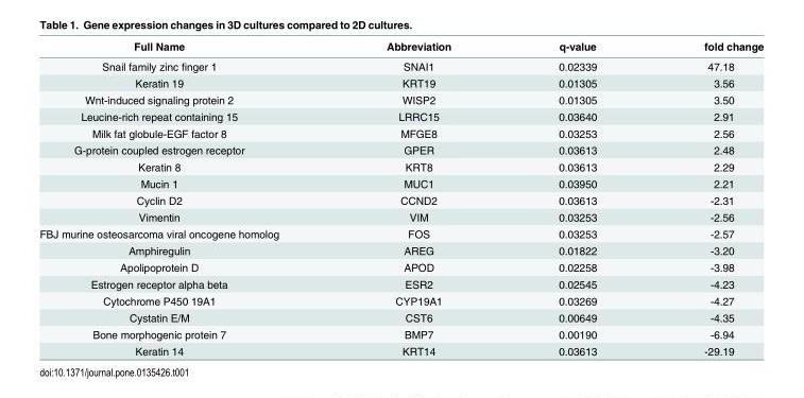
<table><thead><tr><td>Full Name</td><td>Abbreviation</td><td>q-value</td><td>fold change</td></tr></thead><tbody><tr><td>Snail family zinc finger 1</td><td>SNAI1</td><td>0.02339</td><td>47.18</td></tr><tr><td>Keratin 19</td><td>KRT19</td><td>0.01305</td><td>3.56</td></tr><tr><td>Wnt-induced signaling protein 2</td><td>WISP2</td><td>0.01305</td><td>3.50</td></tr><tr><td>Leucine-rich repeat containing 15</td><td>LRRC15</td><td>0.03640</td><td>2.91</td></tr><tr><td>Milk fat globule-EGF factor 8</td><td>MFGE8</td><td>0.03253</td><td>2.56</td></tr><tr><td>G-protein coupled estrogen receptor</td><td>GPER</td><td>0.03613</td><td>2.48</td></tr><tr><td>Keratin 8</td><td>KRT8</td><td>0.03613</td><td>2.29</td></tr><tr><td>Mucin 1</td><td>MUC1</td><td>0.03950</td><td>2.21</td></tr><tr><td>Cyclin D2</td><td>CCND2</td><td>0.03613</td><td>-2.31</td></tr><tr><td>Vimentin</td><td>VIM</td><td>0.03253</td><td>-2.56</td></tr><tr><td>FBJ murine osteosarcoma viral oncogene homolog</td><td>FOS</td><td>0.03253</td><td>-2.57</td></tr><tr><td>Amphiregulin</td><td>AREG</td><td>0.01822</td><td>-3.20</td></tr><tr><td>Apolipoprotein D</td><td>APOD</td><td>0.02258</td><td>-3.98</td></tr><tr><td>Estrogen receptor alpha beta</td><td>ESR2</td><td>0.02545</td><td>-4.23</td></tr><tr><td>Cytochrome P450 19A1</td><td>CYP19A1</td><td>0.03269</td><td>-4.27</td></tr><tr><td>Cystatin E/M</td><td>CST6</td><td>0.00649</td><td>-4.35</td></tr><tr><td>Bone morphogenic protein 7</td><td>BMP7</td><td>0.00190</td><td>-6.94</td></tr><tr><td>Keratin 14</td><td>KRT14</td><td>0.03613</td><td>-29.19</td></tr></tbody></table>